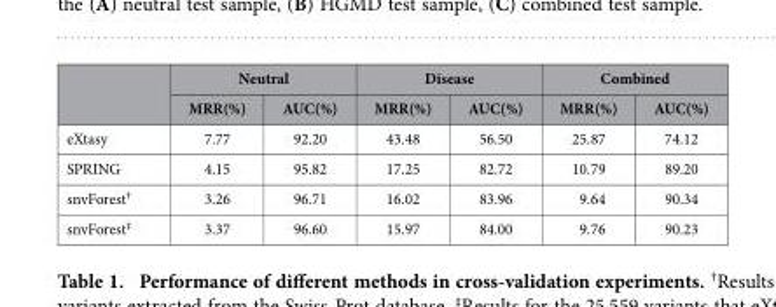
<table><thead><tr><td rowspan="2"></td><td colspan="2">Neutral</td><td colspan="2">Disease</td><td colspan="2">Combined</td></tr><tr><td>MRR(%)</td><td>AUC(%)</td><td>MRR(%)</td><td>AUC(%)</td><td>MRR(%)</td><td>AUC(%)</td></tr></thead><tbody><tr><td>eXtasy</td><td>7.77</td><td>92.20</td><td>43.48</td><td>56.50</td><td>25.87</td><td>74.12</td></tr><tr><td>SPRING</td><td>4.15</td><td>95.82</td><td>17.25</td><td>82.72</td><td>10.79</td><td>89.20</td></tr><tr><td>snvForest†</td><td>3.26</td><td>96.71</td><td>16.02</td><td>83.96</td><td>9.64</td><td>90.34</td></tr><tr><td>snvForest‡</td><td>3.37</td><td>96.60</td><td>15.97</td><td>84.00</td><td>9.76</td><td>90.23</td></tr></tbody></table>